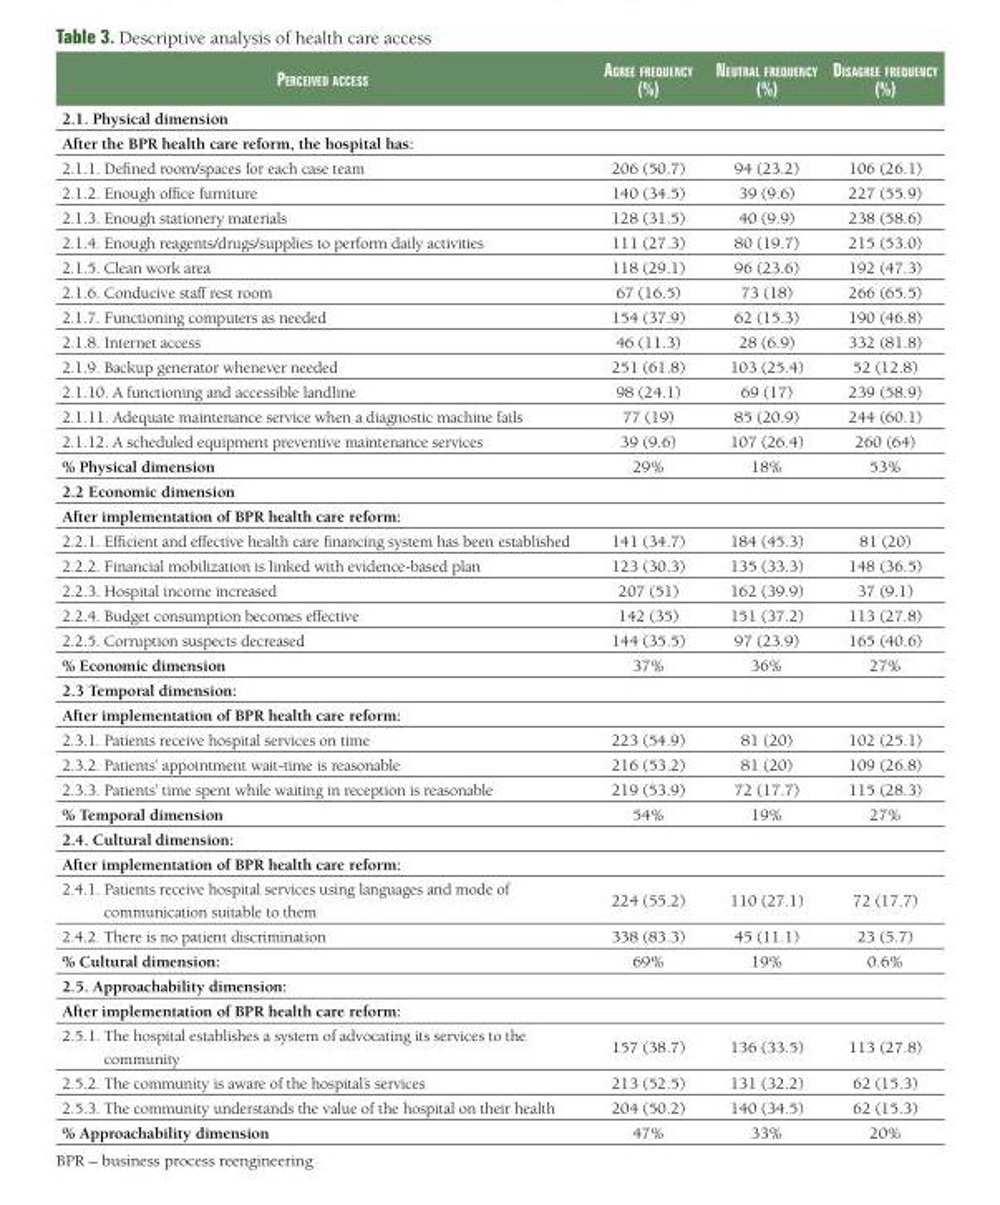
<table><thead><tr><td>PerCeIved aCCess</td><td>agree frequenCy (%)</td><td>neutral frequenCy (%)</td><td>dIsagree frequenCy (%)</td></tr></thead><tbody><tr><td colspan="4">2.1. Physical dimension</td></tr><tr><td colspan="4">After the BPR health care reform, the hospital has:</td></tr><tr><td>2.1.1. Defined room/spaces for each case team</td><td>206 (50.7)</td><td>94 (23.2)</td><td>106 (26.1)</td></tr><tr><td>2.1.2. Enough office furniture</td><td>140 (34.5)</td><td>39 (9.6)</td><td>227 (55.9)</td></tr><tr><td>2.1.3. Enough stationery materials</td><td>128 (31.5)</td><td>40 (9.9)</td><td>238 (58.6)</td></tr><tr><td>2.1.4. Enough reagents/drugs/supplies to perform daily activities</td><td>111 (27.3)</td><td>80 (19.7)</td><td>215 (53.0)</td></tr><tr><td>2.1.5. Clean work area</td><td>118 (29.1)</td><td>96 (23.6)</td><td>192 (47.3)</td></tr><tr><td>2.1.6. Conducive staff rest room</td><td>67 (16.5)</td><td>73 (18)</td><td>266 (65.5)</td></tr><tr><td>2.1.7. Functioning computers as needed</td><td>154 (37.9)</td><td>62 (15.3)</td><td>190 (46.8)</td></tr><tr><td>2.1.8. Internet access</td><td>46 (11.3)</td><td>28 (6.9)</td><td>332 (81.8)</td></tr><tr><td>2.1.9. Backup generator whenever needed</td><td>251 (61.8)</td><td>103 (25.4)</td><td>52 (12.8)</td></tr><tr><td>2.1.10. A functioning and accessible landline</td><td>98 (24.1)</td><td>69 (17)</td><td>239 (58.9)</td></tr><tr><td>2.1.11. Adequate maintenance service when a diagnostic machine fails</td><td>77 (19)</td><td>85 (20.9)</td><td>244 (60.1)</td></tr><tr><td>2.1.12. A scheduled equipment preventive maintenance services</td><td>39 (9.6)</td><td>107 (26.4)</td><td>260 (64)</td></tr><tr><td>% Physical dimension</td><td>29%</td><td>18%</td><td>53%</td></tr><tr><td colspan="4">2.2 Economic dimension</td></tr><tr><td colspan="4">After implementation of BPR health care reform:</td></tr><tr><td>2.2.1. Efficient and effective health care financing system has been established</td><td>141 (34.7)</td><td>184 (45.3)</td><td>81 (20)</td></tr><tr><td>2.2.2. Financial mobilization is linked with evidence-based plan</td><td>123 (30.3)</td><td>135 (33.3)</td><td>148 (36.5)</td></tr><tr><td>2.2.3. Hospital income increased</td><td>207 (51)</td><td>162 (39.9)</td><td>37 (9.1)</td></tr><tr><td>2.2.4. Budget consumption becomes effective</td><td>142 (35)</td><td>151 (37.2)</td><td>113 (27.8)</td></tr><tr><td>2.2.5. Corruption suspects decreased</td><td>144 (35.5)</td><td>97 (23.9)</td><td>165 (40.6)</td></tr><tr><td>% Economic dimension</td><td>37%</td><td>36%</td><td>27%</td></tr><tr><td colspan="4">2.3 Temporal dimension:</td></tr><tr><td colspan="4">After implementation of BPR health care reform:</td></tr><tr><td>2.3.1. Patients receive hospital services on time</td><td>223 (54.9)</td><td>81 (20)</td><td>102 (25.1)</td></tr><tr><td>2.3.2. Patients’ appointment wait-time is reasonable</td><td>216 (53.2)</td><td>81 (20)</td><td>109 (26.8)</td></tr><tr><td>2.3.3. Patients’ time spent while waiting in reception is reasonable</td><td>219 (53.9)</td><td>72 (17.7)</td><td>115 (28.3)</td></tr><tr><td>% Temporal dimension</td><td>54%</td><td>19%</td><td>27%</td></tr><tr><td colspan="4">2.4. Cultural dimension:</td></tr><tr><td colspan="4">After implementation of BPR health care reform:</td></tr><tr><td>2.4.1. Patients receive hospital services using languages and mode of communication suitable to them</td><td>224 (55.2)</td><td>110 (27.1)</td><td>72 (17.7)</td></tr><tr><td>2.4.2. There is no patient discrimination</td><td>338 (83.3)</td><td>45 (11.1)</td><td>23 (5.7)</td></tr><tr><td>% Cultural dimension:</td><td>69%</td><td>19%</td><td>0.6%</td></tr><tr><td colspan="4">2.5. Approachability dimension:</td></tr><tr><td colspan="4">After implementation of BPR health care reform:</td></tr><tr><td>2.5.1. The hospital establishes a system of advocating its services to the community</td><td>157 (38.7)</td><td>136 (33.5)</td><td>113 (27.8)</td></tr><tr><td>2.5.2. The community is aware of the hospital’s services</td><td>213 (52.5)</td><td>131 (32.2)</td><td>62 (15.3)</td></tr><tr><td>2.5.3. The community understands the value of the hospital on their health</td><td>204 (50.2)</td><td>140 (34.5)</td><td>62 (15.3)</td></tr><tr><td>% Approachability dimension</td><td>47%</td><td>33%</td><td>20%</td></tr></tbody></table>